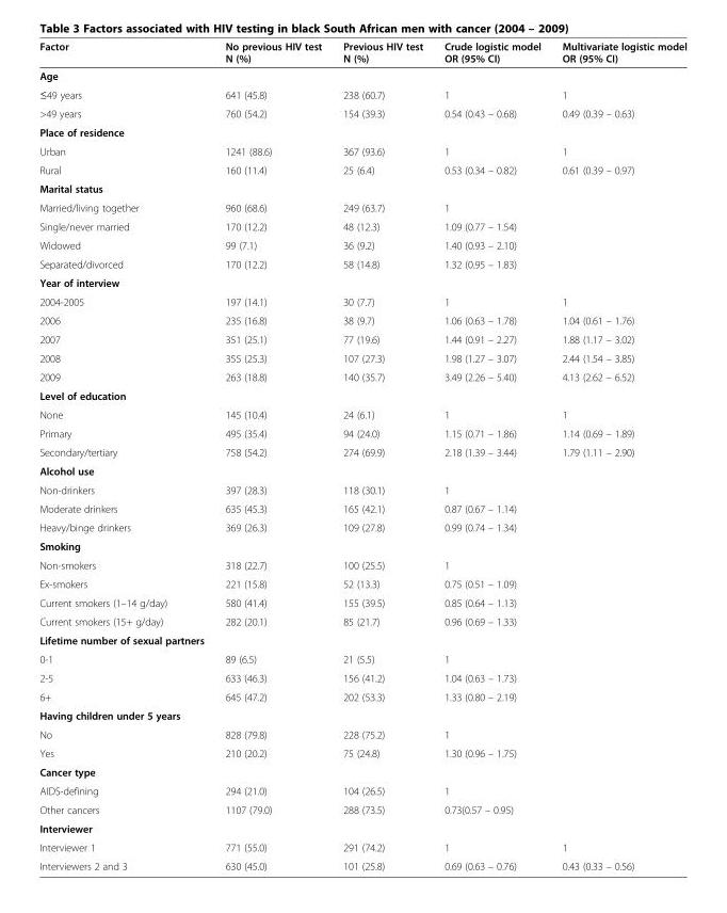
<table><thead><tr><td>Factor</td><td>No previous HIV test N (%)</td><td>Previous HIV test N (%)</td><td>Crude logistic model OR (95% CI)</td><td>Multivariate logistic model OR (95% CI)</td></tr></thead><tbody><tr><td colspan="5">Age</td></tr><tr><td>≤49 years</td><td>641 (45.8)</td><td>238 (60.7)</td><td>1</td><td>1</td></tr><tr><td>&gt;49 years</td><td>760 (54.2)</td><td>154 (39.3)</td><td>0.54 (0.43 – 0.68)</td><td>0.49 (0.39 – 0.63)</td></tr><tr><td colspan="5">Place of residence</td></tr><tr><td>Urban</td><td>1241 (88.6)</td><td>367 (93.6)</td><td>1</td><td>1</td></tr><tr><td>Rural</td><td>160 (11.4)</td><td>25 (6.4)</td><td>0.53 (0.34 – 0.82)</td><td>0.61 (0.39 – 0.97)</td></tr><tr><td colspan="5">Marital status</td></tr><tr><td>Married/living together</td><td>960 (68.6)</td><td>249 (63.7)</td><td>1</td><td></td></tr><tr><td>Single/never married</td><td>170 (12.2)</td><td>48 (12.3)</td><td>1.09 (0.77 – 1.54)</td><td></td></tr><tr><td>Widowed</td><td>99 (7.1)</td><td>36 (9.2)</td><td>1.40 (0.93 – 2.10)</td><td></td></tr><tr><td>Separated/divorced</td><td>170 (12.2)</td><td>58 (14.8)</td><td>1.32 (0.95 – 1.83)</td><td></td></tr><tr><td colspan="5">Year of interview</td></tr><tr><td>2004-2005</td><td>197 (14.1)</td><td>30 (7.7)</td><td>1</td><td>1</td></tr><tr><td>2006</td><td>235 (16.8)</td><td>38 (9.7)</td><td>1.06 (0.63 – 1.78)</td><td>1.04 (0.61 – 1.76)</td></tr><tr><td>2007</td><td>351 (25.1)</td><td>77 (19.6)</td><td>1.44 (0.91 – 2.27)</td><td>1.88 (1.17 – 3.02)</td></tr><tr><td>2008</td><td>355 (25.3)</td><td>107 (27.3)</td><td>1.98 (1.27 – 3.07)</td><td>2.44 (1.54 – 3.85)</td></tr><tr><td>2009</td><td>263 (18.8)</td><td>140 (35.7)</td><td>3.49 (2.26 – 5.40)</td><td>4.13 (2.62 – 6.52)</td></tr><tr><td colspan="5">Level of education</td></tr><tr><td>None</td><td>145 (10.4)</td><td>24 (6.1)</td><td>1</td><td>1</td></tr><tr><td>Primary</td><td>495 (35.4)</td><td>94 (24.0)</td><td>1.15 (0.71 – 1.86)</td><td>1.14 (0.69 – 1.89)</td></tr><tr><td>Secondary/tertiary</td><td>758 (54.2)</td><td>274 (69.9)</td><td>2.18 (1.39 – 3.44)</td><td>1.79 (1.11 – 2.90)</td></tr><tr><td colspan="5">Alcohol use</td></tr><tr><td>Non-drinkers</td><td>397 (28.3)</td><td>118 (30.1)</td><td>1</td><td></td></tr><tr><td>Moderate drinkers</td><td>635 (45.3)</td><td>165 (42.1)</td><td>0.87 (0.67 – 1.14)</td><td></td></tr><tr><td>Heavy/binge drinkers</td><td>369 (26.3)</td><td>109 (27.8)</td><td>0.99 (0.74 – 1.34)</td><td></td></tr><tr><td colspan="5">Smoking</td></tr><tr><td>Non-smokers</td><td>318 (22.7)</td><td>100 (25.5)</td><td>1</td><td></td></tr><tr><td>Ex-smokers</td><td>221 (15.8)</td><td>52 (13.3)</td><td>0.75 (0.51 – 1.09)</td><td></td></tr><tr><td>Current smokers (1–14 g/day)</td><td>580 (41.4)</td><td>155 (39.5)</td><td>0.85 (0.64 – 1.13)</td><td></td></tr><tr><td>Current smokers (15+ g/day)</td><td>282 (20.1)</td><td>85 (21.7)</td><td>0.96 (0.69 – 1.33)</td><td></td></tr><tr><td colspan="5">Lifetime number of sexual partners</td></tr><tr><td>0-1</td><td>89 (6.5)</td><td>21 (5.5)</td><td>1</td><td></td></tr><tr><td>2-5</td><td>633 (46.3)</td><td>156 (41.2)</td><td>1.04 (0.63 – 1.73)</td><td></td></tr><tr><td>6+</td><td>645 (47.2)</td><td>202 (53.3)</td><td>1.33 (0.80 – 2.19)</td><td></td></tr><tr><td colspan="5">Having children under 5 years</td></tr><tr><td>No</td><td>828 (79.8)</td><td>228 (75.2)</td><td>1</td><td></td></tr><tr><td>Yes</td><td>210 (20.2)</td><td>75 (24.8)</td><td>1.30 (0.96 – 1.75)</td><td></td></tr><tr><td colspan="5">Cancer type</td></tr><tr><td>AIDS-defining</td><td>294 (21.0)</td><td>104 (26.5)</td><td>1</td><td></td></tr><tr><td>Other cancers</td><td>1107 (79.0)</td><td>288 (73.5)</td><td>0.73(0.57 – 0.95)</td><td></td></tr><tr><td colspan="5">Interviewer</td></tr><tr><td>Interviewer 1</td><td>771 (55.0)</td><td>291 (74.2)</td><td>1</td><td>1</td></tr><tr><td>Interviewers 2 and 3</td><td>630 (45.0)</td><td>101 (25.8)</td><td>0.69 (0.63 – 0.76)</td><td>0.43 (0.33 – 0.56)</td></tr></tbody></table>